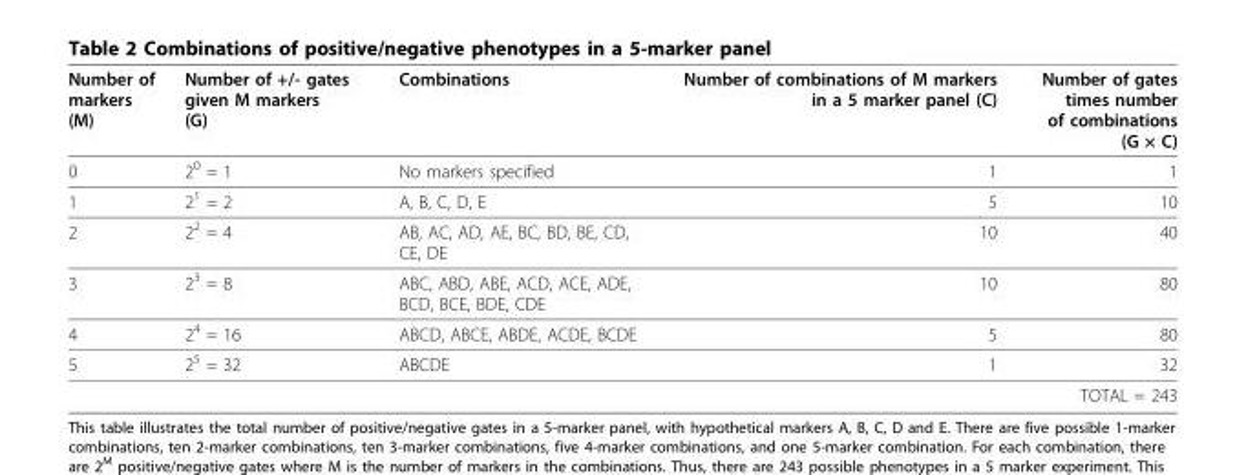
<table><thead><tr><td>Number of markers (M)</td><td>Number of +/- gates given M markers (G)</td><td>Combinations</td><td>Number of combinations of M markers in a 5 marker panel (C)</td><td>Number of gates times number of combinations (G × C)</td></tr></thead><tbody><tr><td>0</td><td>2<sup>0</sup> = 1</td><td>No markers specified</td><td>1</td><td>1</td></tr><tr><td>1</td><td>2<sup>1</sup> = 2</td><td>A, B, C, D, E</td><td>5</td><td>10</td></tr><tr><td>2</td><td>2<sup>2</sup> = 4</td><td>AB, AC, AD, AE, BC, BD, BE, CD, CE, DE</td><td>10</td><td>40</td></tr><tr><td>3</td><td>2<sup>3</sup> = 8</td><td>ABC, ABD, ABE, ACD, ACE, ADE, BCD, BCE, BDE, CDE</td><td>10</td><td>80</td></tr><tr><td>4</td><td>2<sup>4</sup> = 16</td><td>ABCD, ABCE, ABDE, ACDE, BCDE</td><td>5</td><td>80</td></tr><tr><td rowspan="2">5</td><td>2<sup>5</sup> = 32</td><td>ABCDE</td><td>1</td><td>32</td></tr><tr><td></td><td></td><td></td><td>TOTAL = 243</td></tr></tbody></table>